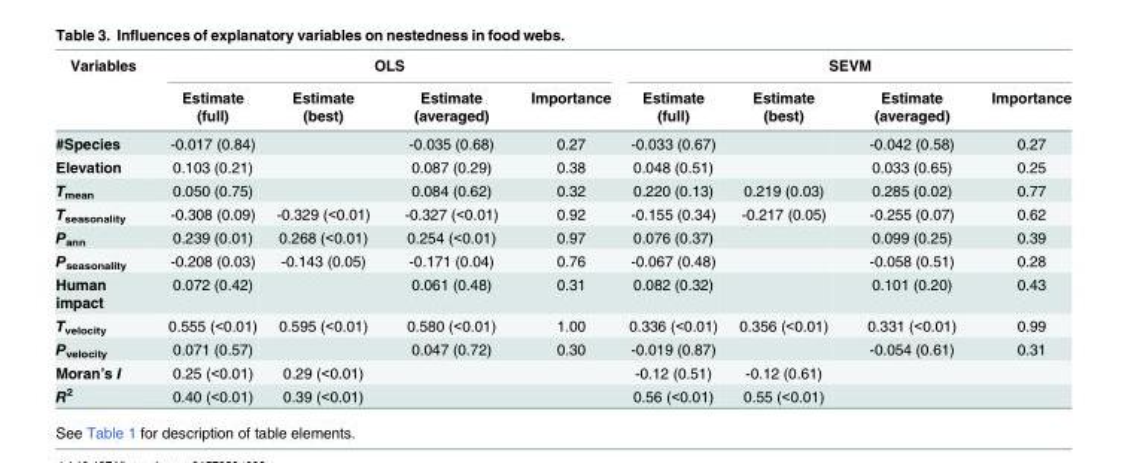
<table><thead><tr><td rowspan="2">Variables</td><td colspan="4">OLS</td><td colspan="4">SEVM</td></tr><tr><td>Estimate (full)</td><td>Estimate (best)</td><td>Estimate (averaged)</td><td>Importance</td><td>Estimate (full)</td><td>Estimate (best)</td><td>Estimate (averaged)</td><td>Importance</td></tr></thead><tbody><tr><td>#Species</td><td>-0.017 (0.84)</td><td></td><td>-0.035 (0.68)</td><td>0.27</td><td>-0.033 (0.67)</td><td></td><td>-0.042 (0.58)</td><td>0.27</td></tr><tr><td>Elevation</td><td>0.103 (0.21)</td><td></td><td>0.087 (0.29)</td><td>0.38</td><td>0.048 (0.51)</td><td></td><td>0.033 (0.65)</td><td>0.25</td></tr><tr><td>T<sub>mean</sub></td><td>0.050 (0.75)</td><td></td><td>0.084 (0.62)</td><td>0.32</td><td>0.220 (0.13)</td><td>0.219 (0.03)</td><td>0.285 (0.02)</td><td>0.77</td></tr><tr><td>T<sub>seasonality</sub></td><td>-0.308 (0.09)</td><td>-0.329 (&lt;0.01)</td><td>-0.327 (&lt;0.01)</td><td>0.92</td><td>-0.155 (0.34)</td><td>-0.217 (0.05)</td><td>-0.255 (0.07)</td><td>0.62</td></tr><tr><td>P<sub>ann</sub></td><td>0.239 (0.01)</td><td>0.268 (&lt;0.01)</td><td>0.254 (&lt;0.01)</td><td>0.97</td><td>0.076 (0.37)</td><td></td><td>0.099 (0.25)</td><td>0.39</td></tr><tr><td>P<sub>seasonality</sub></td><td>-0.208 (0.03)</td><td>-0.143 (0.05)</td><td>-0.171 (0.04)</td><td>0.76</td><td>-0.067 (0.48)</td><td></td><td>-0.058 (0.51)</td><td>0.28</td></tr><tr><td>Human impact</td><td>0.072 (0.42)</td><td></td><td>0.061 (0.48)</td><td>0.31</td><td>0.082 (0.32)</td><td></td><td>0.101 (0.20)</td><td>0.43</td></tr><tr><td>T<sub>velocity</sub></td><td>0.555 (&lt;0.01)</td><td>0.595 (&lt;0.01)</td><td>0.580 (&lt;0.01)</td><td>1.00</td><td>0.336 (&lt;0.01)</td><td>0.356 (&lt;0.01)</td><td>0.331 (&lt;0.01)</td><td>0.99</td></tr><tr><td>P<sub>velocity</sub></td><td>0.071 (0.57)</td><td></td><td>0.047 (0.72)</td><td>0.30</td><td>-0.019 (0.87)</td><td></td><td>-0.054 (0.61)</td><td>0.31</td></tr><tr><td>Moran’s I</td><td>0.25 (&lt;0.01)</td><td>0.29 (&lt;0.01)</td><td></td><td></td><td>-0.12 (0.51)</td><td>-0.12 (0.61)</td><td></td><td></td></tr><tr><td>R<sup>2</sup></td><td>0.40 (&lt;0.01)</td><td>0.39 (&lt;0.01)</td><td></td><td></td><td>0.56 (&lt;0.01)</td><td>0.55 (&lt;0.01)</td><td></td><td></td></tr></tbody></table>